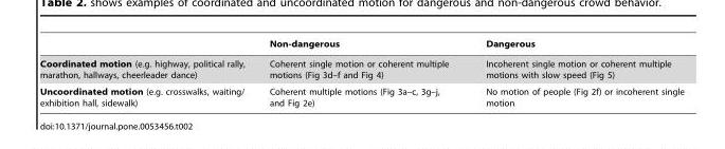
<table><thead><tr><td></td><td>Non-dangerous</td><td>Dangerous</td></tr></thead><tbody><tr><td>Coordinated motion (e.g. highway, political rally, marathon, hallways, cheerleader dance)</td><td>Coherent single motion or coherent multiple motions (Fig 3d–f and Fig 4)</td><td>Incoherent single motion or coherent multiple motions with slow speed (Fig 5)</td></tr><tr><td>Uncoordinated motion (e.g. crosswalks, waiting/ exhibition hall, sidewalk)</td><td>Coherent multiple motions (Fig 3a–c, 3g–j, and Fig 2e)</td><td>No motion of people (Fig 2f) or incoherent single motion</td></tr></tbody></table>